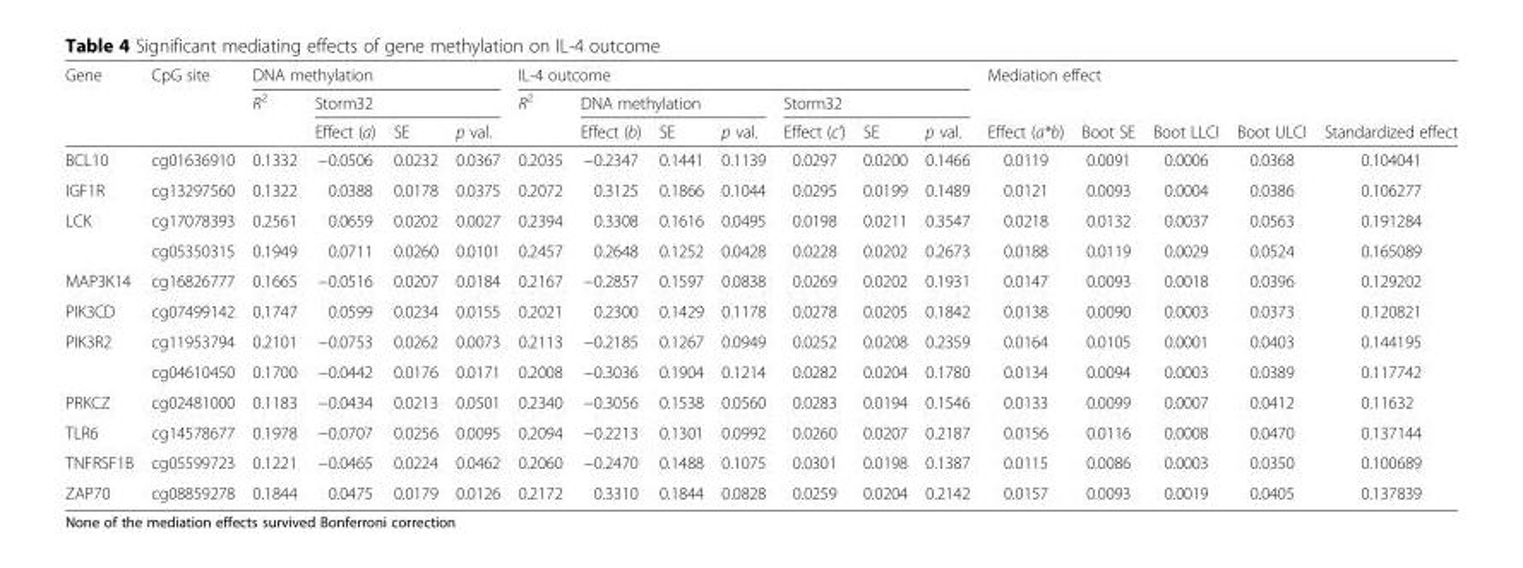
<table><thead><tr><td rowspan="3">Gene</td><td rowspan="3">CpG site</td><td colspan="4">DNA methylation</td><td colspan="7">IL-4 outcome</td><td rowspan="2" colspan="5">Mediation effect</td></tr><tr><td rowspan="2">R<sup>2</sup></td><td colspan="3">Storm32</td><td rowspan="2">R<sup>2</sup></td><td colspan="3">DNA methylation</td><td colspan="3">Storm32</td></tr><tr><td>Effect (a)</td><td>SE</td><td>p val.</td><td>Effect (b)</td><td>SE</td><td>p val.</td><td>Effect (c&#x27;)</td><td>SE</td><td>p val.</td><td>Effect (a*b)</td><td>Boot SE</td><td>Boot LLCI</td><td>Boot ULCI</td><td>Standardized effect</td></tr></thead><tbody><tr><td>BCL10</td><td>cg01636910</td><td>0.1332</td><td>−0.0506</td><td>0.0232</td><td>0.0367</td><td>0.2035</td><td>−0.2347</td><td>0.1441</td><td>0.1139</td><td>0.0297</td><td>0.0200</td><td>0.1466</td><td>0.0119</td><td>0.0091</td><td>0.0006</td><td>0.0368</td><td>0.104041</td></tr><tr><td>IGF1R</td><td>cg13297560</td><td>0.1322</td><td>0.0388</td><td>0.0178</td><td>0.0375</td><td>0.2072</td><td>0.3125</td><td>0.1866</td><td>0.1044</td><td>0.0295</td><td>0.0199</td><td>0.1489</td><td>0.0121</td><td>0.0093</td><td>0.0004</td><td>0.0386</td><td>0.106277</td></tr><tr><td rowspan="2">LCK</td><td>cg17078393</td><td>0.2561</td><td>0.0659</td><td>0.0202</td><td>0.0027</td><td>0.2394</td><td>0.3308</td><td>0.1616</td><td>0.0495</td><td>0.0198</td><td>0.0211</td><td>0.3547</td><td>0.0218</td><td>0.0132</td><td>0.0037</td><td>0.0563</td><td>0.191284</td></tr><tr><td>cg05350315</td><td>0.1949</td><td>0.0711</td><td>0.0260</td><td>0.0101</td><td>0.2457</td><td>0.2648</td><td>0.1252</td><td>0.0428</td><td>0.0228</td><td>0.0202</td><td>0.2673</td><td>0.0188</td><td>0.0119</td><td>0.0029</td><td>0.0524</td><td>0.165089</td></tr><tr><td>MAP3K14</td><td>cg16826777</td><td>0.1665</td><td>−0.0516</td><td>0.0207</td><td>0.0184</td><td>0.2167</td><td>−0.2857</td><td>0.1597</td><td>0.0838</td><td>0.0269</td><td>0.0202</td><td>0.1931</td><td>0.0147</td><td>0.0093</td><td>0.0018</td><td>0.0396</td><td>0.129202</td></tr><tr><td>PIK3CD</td><td>cg07499142</td><td>0.1747</td><td>0.0599</td><td>0.0234</td><td>0.0155</td><td>0.2021</td><td>0.2300</td><td>0.1429</td><td>0.1178</td><td>0.0278</td><td>0.0205</td><td>0.1842</td><td>0.0138</td><td>0.0090</td><td>0.0003</td><td>0.0373</td><td>0.120821</td></tr><tr><td rowspan="2">PIK3R2</td><td>cg11953794</td><td>0.2101</td><td>−0.0753</td><td>0.0262</td><td>0.0073</td><td>0.2113</td><td>−0.2185</td><td>0.1267</td><td>0.0949</td><td>0.0252</td><td>0.0208</td><td>0.2359</td><td>0.0164</td><td>0.0105</td><td>0.0001</td><td>0.0403</td><td>0.144195</td></tr><tr><td>cg04610450</td><td>0.1700</td><td>−0.0442</td><td>0.0176</td><td>0.0171</td><td>0.2008</td><td>−0.3036</td><td>0.1904</td><td>0.1214</td><td>0.0282</td><td>0.0204</td><td>0.1780</td><td>0.0134</td><td>0.0094</td><td>0.0003</td><td>0.0389</td><td>0.117742</td></tr><tr><td>PRKCZ</td><td>cg02481000</td><td>0.1183</td><td>−0.0434</td><td>0.0213</td><td>0.0501</td><td>0.2340</td><td>−0.3056</td><td>0.1538</td><td>0.0560</td><td>0.0283</td><td>0.0194</td><td>0.1546</td><td>0.0133</td><td>0.0099</td><td>0.0007</td><td>0.0412</td><td>0.11632</td></tr><tr><td>TLR6</td><td>cg14578677</td><td>0.1978</td><td>−0.0707</td><td>0.0256</td><td>0.0095</td><td>0.2094</td><td>−0.2213</td><td>0.1301</td><td>0.0992</td><td>0.0260</td><td>0.0207</td><td>0.2187</td><td>0.0156</td><td>0.0116</td><td>0.0008</td><td>0.0470</td><td>0.137144</td></tr><tr><td>TNFRSF1B</td><td>cg05599723</td><td>0.1221</td><td>−0.0465</td><td>0.0224</td><td>0.0462</td><td>0.2060</td><td>−0.2470</td><td>0.1488</td><td>0.1075</td><td>0.0301</td><td>0.0198</td><td>0.1387</td><td>0.0115</td><td>0.0086</td><td>0.0003</td><td>0.0350</td><td>0.100689</td></tr><tr><td>ZAP70</td><td>cg08859278</td><td>0.1844</td><td>0.0475</td><td>0.0179</td><td>0.0126</td><td>0.2172</td><td>0.3310</td><td>0.1844</td><td>0.0828</td><td>0.0259</td><td>0.0204</td><td>0.2142</td><td>0.0157</td><td>0.0093</td><td>0.0019</td><td>0.0405</td><td>0.137839</td></tr></tbody></table>